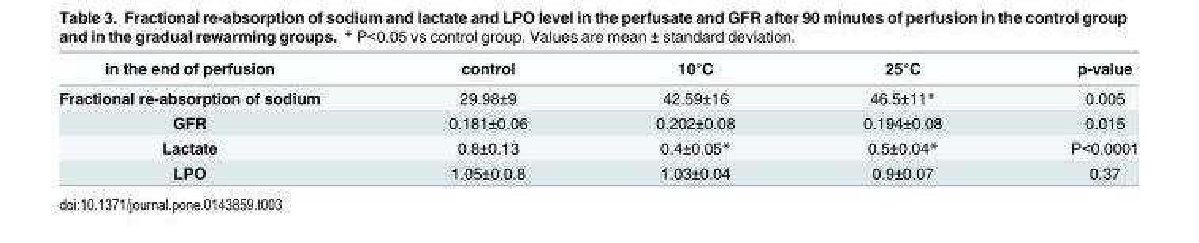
<table><thead><tr><td>in the end of perfusion</td><td>control</td><td>10°C</td><td>25°C</td><td>p-value</td></tr></thead><tbody><tr><td>Fractional re-absorption of sodium</td><td>29.98±9</td><td>42.59±16</td><td>46.5±11*</td><td>0.005</td></tr><tr><td>GFR</td><td>0.181±0.06</td><td>0.202±0.08</td><td>0.194±0.08</td><td>0.015</td></tr><tr><td>Lactate</td><td>0.8±0.13</td><td>0.4±0.05*</td><td>0.5±0.04*</td><td>P&lt;0.0001</td></tr><tr><td>LPO</td><td>1.05±0.0.8</td><td>1.03±0.04</td><td>0.9±0.07</td><td>0.37</td></tr></tbody></table>